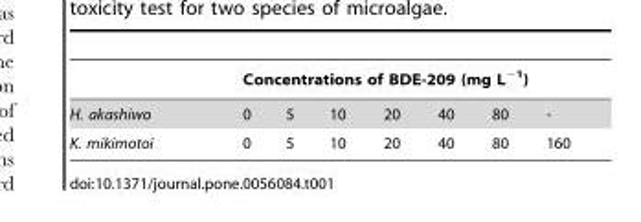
<table><thead><tr><td rowspan="2">H. akashiwo</td><td colspan="7">Concentrations of BDE-209 (mg L<sup>−1</sup>)</td></tr><tr><td>0</td><td>5</td><td>10</td><td>20</td><td>40</td><td>80</td><td>-</td></tr></thead><tbody><tr><td>K. mikimotoi</td><td>0</td><td>5</td><td>10</td><td>20</td><td>40</td><td>80</td><td>160</td></tr></tbody></table>